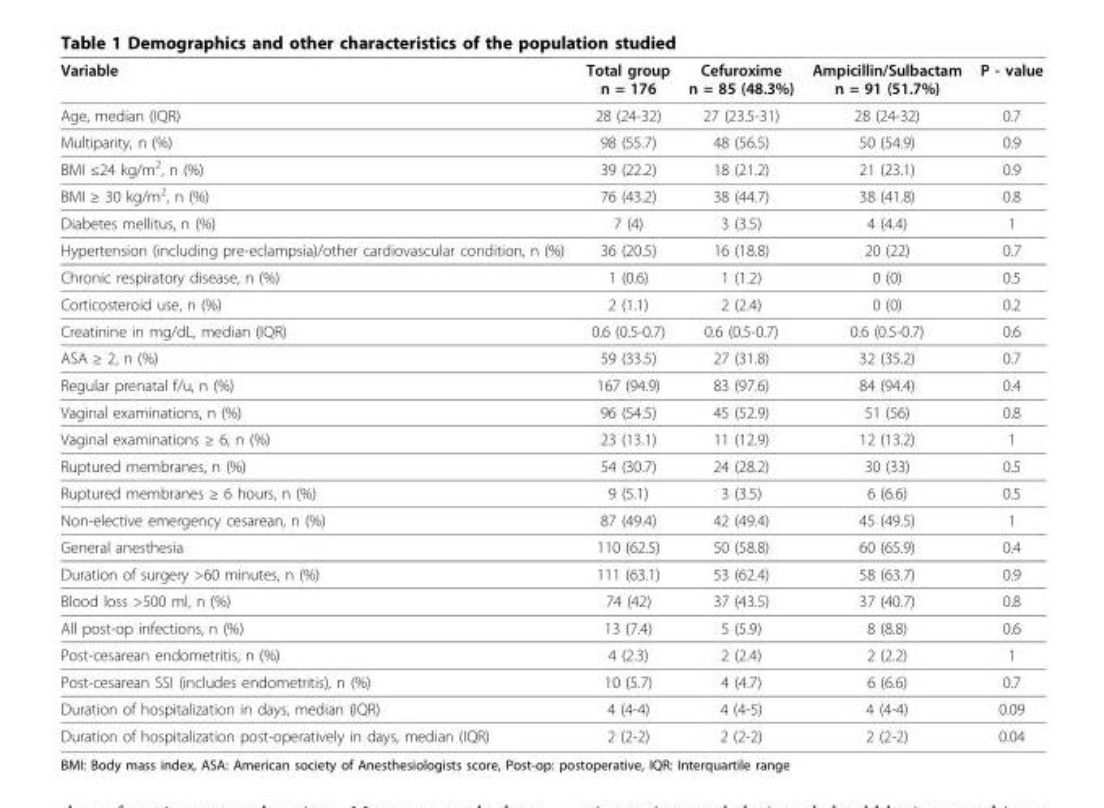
<table><thead><tr><td>Variable</td><td>Total group n = 176</td><td>Cefuroxime n = 85 (48.3%)</td><td>Ampicillin/Sulbactam n = 91 (51.7%)</td><td>P - value</td></tr></thead><tbody><tr><td>Age, median (IQR)</td><td>28 (24-32)</td><td>27 (23.5-31)</td><td>28 (24-32)</td><td>0.7</td></tr><tr><td>Multiparity, n (%)</td><td>98 (55.7)</td><td>48 (56.5)</td><td>50 (54.9)</td><td>0.9</td></tr><tr><td>BMI ≤24 kg/m<sup>2</sup>, n (%)</td><td>39 (22.2)</td><td>18 (21.2)</td><td>21 (23.1)</td><td>0.9</td></tr><tr><td>BMI ≥ 30 kg/m<sup>2</sup>, n (%)</td><td>76 (43.2)</td><td>38 (44.7)</td><td>38 (41.8)</td><td>0.8</td></tr><tr><td>Diabetes mellitus, n (%)</td><td>7 (4)</td><td>3 (3.5)</td><td>4 (4.4)</td><td>1</td></tr><tr><td>Hypertension (including pre-eclampsia)/other cardiovascular condition, n (%)</td><td>36 (20.5)</td><td>16 (18.8)</td><td>20 (22)</td><td>0.7</td></tr><tr><td>Chronic respiratory disease, n (%)</td><td>1 (0.6)</td><td>1 (1.2)</td><td>0 (0)</td><td>0.5</td></tr><tr><td>Corticosteroid use, n (%)</td><td>2 (1.1)</td><td>2 (2.4)</td><td>0 (0)</td><td>0.2</td></tr><tr><td>Creatinine in mg/dL, median (IQR)</td><td>0.6 (0.5-0.7)</td><td>0.6 (0.5-0.7)</td><td>0.6 (0.5-0.7)</td><td>0.6</td></tr><tr><td>ASA ≥ 2, n (%)</td><td>59 (33.5)</td><td>27 (31.8)</td><td>32 (35.2)</td><td>0.7</td></tr><tr><td>Regular prenatal f/u, n (%)</td><td>167 (94.9)</td><td>83 (97.6)</td><td>84 (94.4)</td><td>0.4</td></tr><tr><td>Vaginal examinations, n (%)</td><td>96 (54.5)</td><td>45 (52.9)</td><td>51 (56)</td><td>0.8</td></tr><tr><td>Vaginal examinations ≥ 6, n (%)</td><td>23 (13.1)</td><td>11 (12.9)</td><td>12 (13.2)</td><td>1</td></tr><tr><td>Ruptured membranes, n (%)</td><td>54 (30.7)</td><td>24 (28.2)</td><td>30 (33)</td><td>0.5</td></tr><tr><td>Ruptured membranes ≥ 6 hours, n (%)</td><td>9 (5.1)</td><td>3 (3.5)</td><td>6 (6.6)</td><td>0.5</td></tr><tr><td>Non-elective emergency cesarean, n (%)</td><td>87 (49.4)</td><td>42 (49.4)</td><td>45 (49.5)</td><td>1</td></tr><tr><td>General anesthesia</td><td>110 (62.5)</td><td>50 (58.8)</td><td>60 (65.9)</td><td>0.4</td></tr><tr><td>Duration of surgery &gt;60 minutes, n (%)</td><td>111 (63.1)</td><td>53 (62.4)</td><td>58 (63.7)</td><td>0.9</td></tr><tr><td>Blood loss &gt;500 ml, n (%)</td><td>74 (42)</td><td>37 (43.5)</td><td>37 (40.7)</td><td>0.8</td></tr><tr><td>All post-op infections, n (%)</td><td>13 (7.4)</td><td>5 (5.9)</td><td>8 (8.8)</td><td>0.6</td></tr><tr><td>Post-cesarean endometritis, n (%)</td><td>4 (2.3)</td><td>2 (2.4)</td><td>2 (2.2)</td><td>1</td></tr><tr><td>Post-cesarean SSI (includes endometritis), n (%)</td><td>10 (5.7)</td><td>4 (4.7)</td><td>6 (6.6)</td><td>0.7</td></tr><tr><td>Duration of hospitalization in days, median (IQR)</td><td>4 (4-4)</td><td>4 (4-5)</td><td>4 (4-4)</td><td>0.09</td></tr><tr><td>Duration of hospitalization post-operatively in days, median (IQR)</td><td>2 (2-2)</td><td>2 (2-2)</td><td>2 (2-2)</td><td>0.04</td></tr></tbody></table>